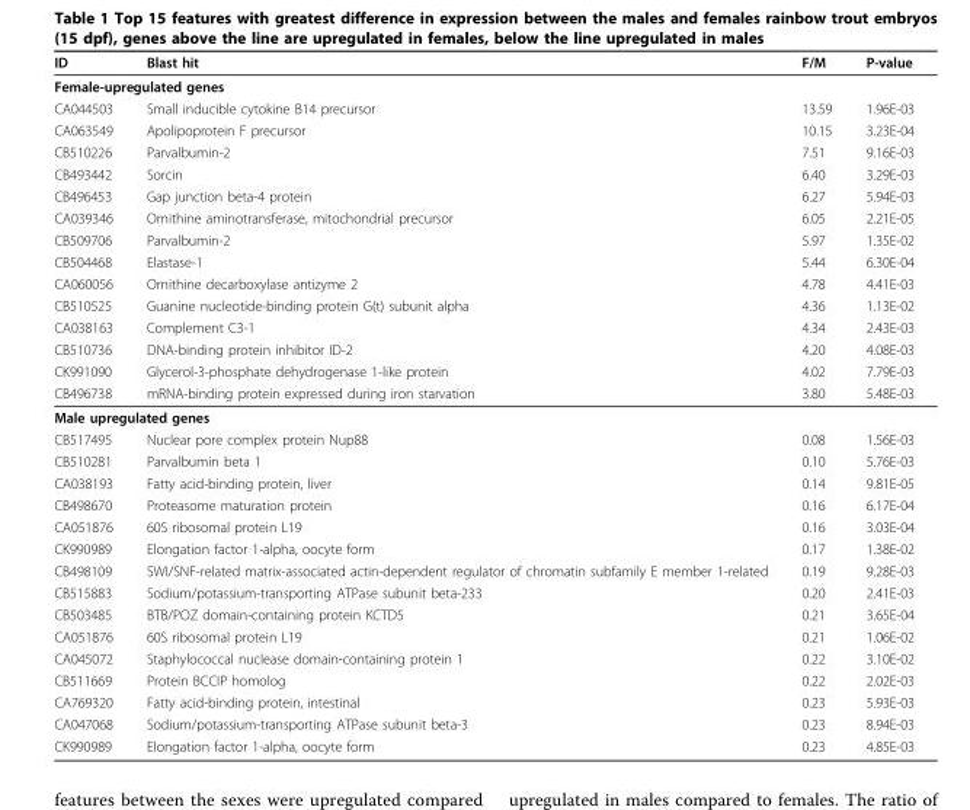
<table><thead><tr><td>ID</td><td>Blast hit</td><td>F/M</td><td>P-value</td></tr></thead><tbody><tr><td colspan="4">Female-upregulated genes</td></tr><tr><td>CA044503</td><td>Small inducible cytokine B14 precursor</td><td>13.59</td><td>1.96E-03</td></tr><tr><td>CA063549</td><td>Apolipoprotein F precursor</td><td>10.15</td><td>3.23E-04</td></tr><tr><td>CB510226</td><td>Parvalbumin-2</td><td>7.51</td><td>9.16E-03</td></tr><tr><td>CB493442</td><td>Sorcin</td><td>6.40</td><td>3.29E-03</td></tr><tr><td>CB496453</td><td>Gap junction beta-4 protein</td><td>6.27</td><td>5.94E-03</td></tr><tr><td>CA039346</td><td>Ornithine aminotransferase, mitochondrial precursor</td><td>6.05</td><td>2.21E-05</td></tr><tr><td>CB509706</td><td>Parvalbumin-2</td><td>5.97</td><td>1.35E-02</td></tr><tr><td>CB504468</td><td>Elastase-1</td><td>5.44</td><td>6.30E-04</td></tr><tr><td>CA060056</td><td>Ornithine decarboxylase antizyme 2</td><td>4.78</td><td>4.41E-03</td></tr><tr><td>CB510525</td><td>Guanine nucleotide-binding protein G(t) subunit alpha</td><td>4.36</td><td>1.13E-02</td></tr><tr><td>CA038163</td><td>Complement C3-1</td><td>4.34</td><td>2.43E-03</td></tr><tr><td>CB510736</td><td>DNA-binding protein inhibitor ID-2</td><td>4.20</td><td>4.08E-03</td></tr><tr><td>CK991090</td><td>Glycerol-3-phosphate dehydrogenase 1-like protein</td><td>4.02</td><td>7.79E-03</td></tr><tr><td>CB496738</td><td>mRNA-binding protein expressed during iron starvation</td><td>3.80</td><td>5.48E-03</td></tr><tr><td colspan="4">Male upregulated genes</td></tr><tr><td>CB517495</td><td>Nuclear pore complex protein Nup88</td><td>0.08</td><td>1.56E-03</td></tr><tr><td>CB510281</td><td>Parvalbumin beta 1</td><td>0.10</td><td>5.76E-03</td></tr><tr><td>CA038193</td><td>Fatty acid-binding protein, liver</td><td>0.14</td><td>9.81E-05</td></tr><tr><td>CB498670</td><td>Proteasome maturation protein</td><td>0.16</td><td>6.17E-04</td></tr><tr><td>CA051876</td><td>60S ribosomal protein L19</td><td>0.16</td><td>3.03E-04</td></tr><tr><td>CK990989</td><td>Elongation factor 1-alpha, oocyte form</td><td>0.17</td><td>1.38E-02</td></tr><tr><td>CB498109</td><td>SWI/SNF-related matrix-associated actin-dependent regulator of chromatin subfamily E member 1-related</td><td>0.19</td><td>9.28E-03</td></tr><tr><td>CB515883</td><td>Sodium/potassium-transporting ATPase subunit beta-233</td><td>0.20</td><td>2.41E-03</td></tr><tr><td>CB503485</td><td>BTB/POZ domain-containing protein KCTD5</td><td>0.21</td><td>3.65E-04</td></tr><tr><td>CA051876</td><td>60S ribosomal protein L19</td><td>0.21</td><td>1.06E-02</td></tr><tr><td>CA045072</td><td>Staphylococcal nuclease domain-containing protein 1</td><td>0.22</td><td>3.10E-02</td></tr><tr><td>CB511669</td><td>Protein BCCIP homolog</td><td>0.22</td><td>2.02E-03</td></tr><tr><td>CA769320</td><td>Fatty acid-binding protein, intestinal</td><td>0.23</td><td>5.93E-03</td></tr><tr><td>CA047068</td><td>Sodium/potassium-transporting ATPase subunit beta-3</td><td>0.23</td><td>8.94E-03</td></tr><tr><td>CK990989</td><td>Elongation factor 1-alpha, oocyte form</td><td>0.23</td><td>4.85E-03</td></tr></tbody></table>